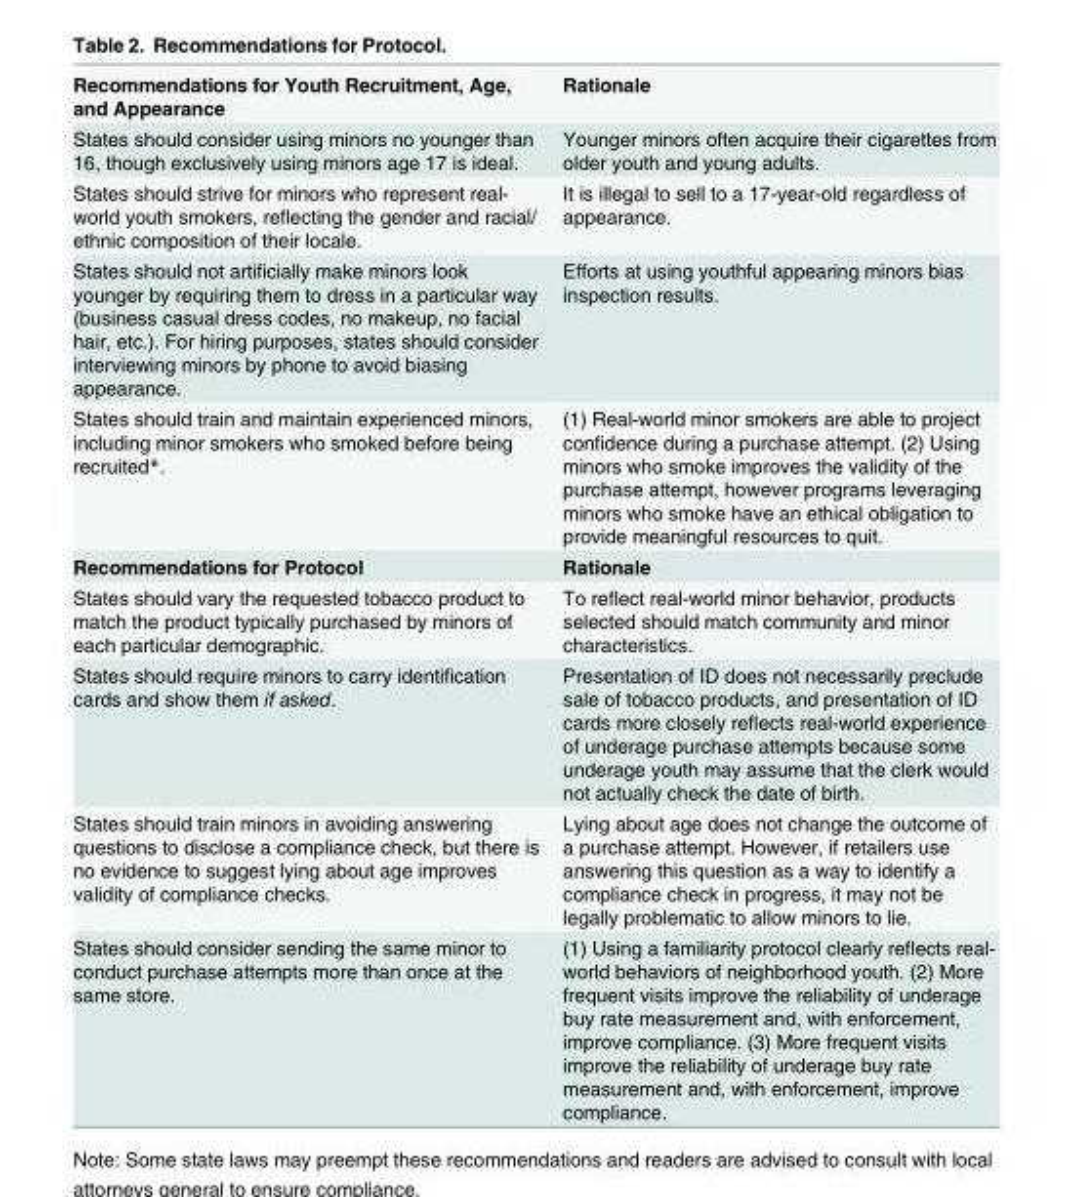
<table><tbody><tr><td>Recommendations for Youth Recruitment, Age, and Appearance</td><td>Rationale</td></tr><tr><td>States should consider using minors no younger than 16, though exclusively using minors age 17 is ideal.</td><td>Younger minors often acquire their cigarettes from older youth and young adults.</td></tr><tr><td>States should strive for minors who represent real- world youth smokers, reflecting the gender and racial/ ethnic composition of their locale.</td><td>It is illegal to sell to a 17-year-old regardless of appearance.</td></tr><tr><td>States should not artificially make minors look younger by requiring them to dress in a particular way (business casual dress codes, no makeup, no facial hair, etc.). For hiring purposes, states should consider interviewing minors by phone to avoid biasing appearance.</td><td>Efforts at using youthful appearing minors bias inspection results.</td></tr><tr><td>States should train and maintain experienced minors, including minor smokers who smoked before being recruited*.</td><td>(1) Real-world minor smokers are able to project confidence during a purchase attempt. (2) Using minors who smoke improves the validity of the purchase attempt, however programs leveraging minors who smoke have an ethical obligation to provide meaningful resources to quit.</td></tr><tr><td>Recommendations for Protocol</td><td>Rationale</td></tr><tr><td>States should vary the requested tobacco product to match the product typically purchased by minors of each particular demographic.</td><td>To reflect real-world minor behavior, products selected should match community and minor characteristics.</td></tr><tr><td>States should require minors to carry identification cards and show them if asked.</td><td>Presentation of ID does not necessarily preclude sale of tobacco products, and presentation of ID cards more closely reflects real-world experience of underage purchase attempts because some underage youth may assume that the clerk would not actually check the date of birth.</td></tr><tr><td>States should train minors in avoiding answering questions to disclose a compliance check, but there is no evidence to suggest lying about age improves validity of compliance checks.</td><td>Lying about age does not change the outcome of a purchase attempt. However, if retailers use answering this question as a way to identify a compliance check in progress, it may not be legally problematic to allow minors to lie.</td></tr><tr><td>States should consider sending the same minor to conduct purchase attempts more than once at the same store.</td><td>(1) Using a familiarity protocol clearly reflects real- world behaviors of neighborhood youth. (2) More frequent visits improve the reliability of underage buy rate measurement and, with enforcement, improve compliance. (3) More frequent visits improve the reliability of underage buy rate measurement and, with enforcement, improve compliance.</td></tr></tbody></table>